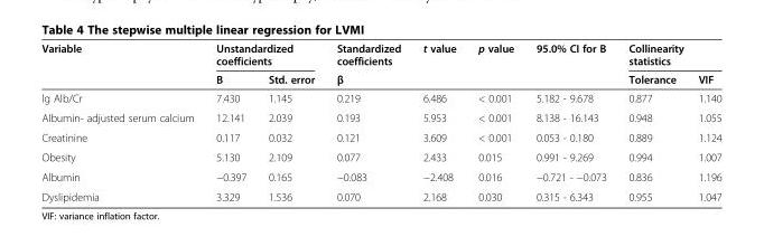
<table><thead><tr><td rowspan="2">Variable</td><td colspan="2">Unstandardized coefficients</td><td rowspan="2">Standardized coefficients β</td><td rowspan="2">t value</td><td rowspan="2">p value</td><td rowspan="2">95.0% CI for B</td><td colspan="2">Collinearity statistics</td></tr><tr><td>B</td><td>Std. error</td><td>Tolerance</td><td>VIF</td></tr></thead><tbody><tr><td>lg Alb/Cr</td><td>7.430</td><td>1.145</td><td>0.219</td><td>6.486</td><td>&lt; 0.001</td><td>5.182 - 9.678</td><td>0.877</td><td>1.140</td></tr><tr><td>Albumin- adjusted serum calcium</td><td>12.141</td><td>2.039</td><td>0.193</td><td>5.953</td><td>&lt; 0.001</td><td>8.138 - 16.143</td><td>0.948</td><td>1.055</td></tr><tr><td>Creatinine</td><td>0.117</td><td>0.032</td><td>0.121</td><td>3.609</td><td>&lt; 0.001</td><td>0.053 - 0.180</td><td>0.889</td><td>1.124</td></tr><tr><td>Obesity</td><td>5.130</td><td>2.109</td><td>0.077</td><td>2.433</td><td>0.015</td><td>0.991 - 9.269</td><td>0.994</td><td>1.007</td></tr><tr><td>Albumin</td><td>−0.397</td><td>0.165</td><td>−0.083</td><td>−2.408</td><td>0.016</td><td>−0.721 - −0.073</td><td>0.836</td><td>1.196</td></tr><tr><td>Dyslipidemia</td><td>3.329</td><td>1.536</td><td>0.070</td><td>2.168</td><td>0.030</td><td>0.315 - 6.343</td><td>0.955</td><td>1.047</td></tr></tbody></table>